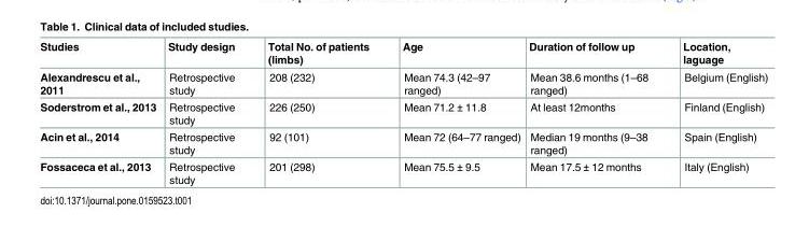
<table><thead><tr><td>Studies</td><td>Study design</td><td>Total No. of patients (limbs)</td><td>Age</td><td>Duration of follow up</td><td>Location, laguage</td></tr></thead><tbody><tr><td>Alexandrescu et al., 2011</td><td>Retrospective study</td><td>208 (232)</td><td>Mean 74.3 (42–97 ranged)</td><td>Mean 38.6 months (1–68 ranged)</td><td>Belgium (English)</td></tr><tr><td>Soderstrom et al., 2013</td><td>Retrospective study</td><td>226 (250)</td><td>Mean 71.2 ± 11.8</td><td>At least 12months</td><td>Finland (English)</td></tr><tr><td>Acin et al., 2014</td><td>Retrospective study</td><td>92 (101)</td><td>Mean 72 (64–77 ranged)</td><td>Median 19 months (9–38 ranged)</td><td>Spain (English)</td></tr><tr><td>Fossaceca et al., 2013</td><td>Retrospective study</td><td>201 (298)</td><td>Mean 75.5 ± 9.5</td><td>Mean 17.5 ± 12 months</td><td>Italy (English)</td></tr></tbody></table>